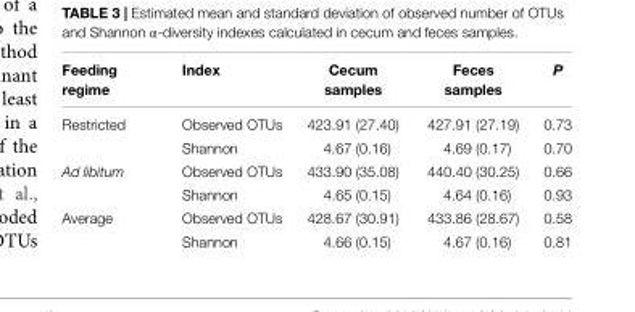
<table><thead><tr><td>Feeding regime</td><td>Index</td><td>Cecum samples</td><td>Feces samples</td><td>P</td></tr></thead><tbody><tr><td rowspan="2">Restricted</td><td>Observed OTUs</td><td>423.91 (27.40)</td><td>427.91 (27.19)</td><td>0.73</td></tr><tr><td>Shannon</td><td>4.67 (0.16)</td><td>4.69 (0.17)</td><td>0.70</td></tr><tr><td rowspan="2">Ad libitum</td><td>Observed OTUs</td><td>433.90 (35.08)</td><td>440.40 (30.25)</td><td>0.66</td></tr><tr><td>Shannon</td><td>4.65 (0.15)</td><td>4.64 (0.16)</td><td>0.93</td></tr><tr><td rowspan="2">Average</td><td>Observed OTUs</td><td>428.67 (30.91)</td><td>433.86 (28.67)</td><td>0.58</td></tr><tr><td>Shannon</td><td>4.66 (0.15)</td><td>4.67 (0.16)</td><td>0.81</td></tr></tbody></table>